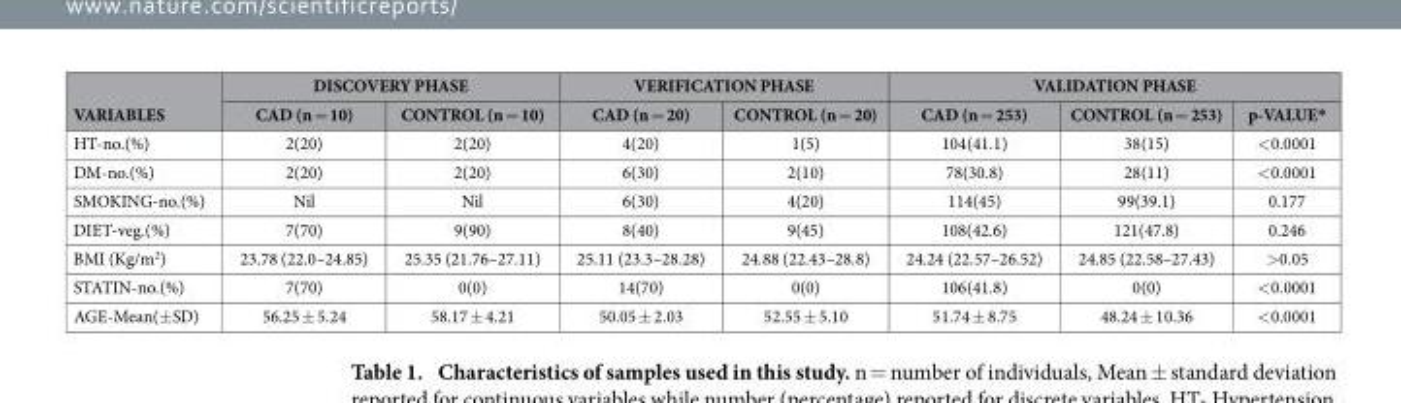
<table><thead><tr><td rowspan="2">VARIABLES</td><td colspan="2">DISCOVERY PHASE</td><td colspan="2">VERIFICATION PHASE</td><td colspan="3">VALIDATION PHASE</td></tr><tr><td>CAD (n = 10)</td><td>CONTROL (n = 10)</td><td>CAD (n = 20)</td><td>CONTROL (n = 20)</td><td>CAD (n = 253)</td><td>CONTROL (n = 253)</td><td>p-VALUE*</td></tr></thead><tbody><tr><td>HT-no.(%)</td><td>2(20)</td><td>2(20)</td><td>4(20)</td><td>1(5)</td><td>104(41.1)</td><td>38(15)</td><td>&lt; 0.0001</td></tr><tr><td>DM-no.(%)</td><td>2(20)</td><td>2(20)</td><td>6(30)</td><td>2(10)</td><td>78(30.8)</td><td>28(11)</td><td>&lt; 0.0001</td></tr><tr><td>SMOKING-no.(%)</td><td>Nil</td><td>Nil</td><td>6(30)</td><td>4(20)</td><td>114(45)</td><td>99(39.1)</td><td>0.177</td></tr><tr><td>DIET-veg.(%)</td><td>7(70)</td><td>9(90)</td><td>8(40)</td><td>9(45)</td><td>108(42.6)</td><td>121(47.8)</td><td>0.246</td></tr><tr><td>BMI (Kg/m<sup>2</sup>)</td><td>23.78 (22.0–24.85)</td><td>25.35 (21.76–27.11)</td><td>25.11 (23.3–28.28)</td><td>24.88 (22.43–28.8)</td><td>24.24 (22.57–26.52)</td><td>24.85 (22.58–27.43)</td><td>&gt; 0.05</td></tr><tr><td>STATIN-no.(%)</td><td>7(70)</td><td>0(0)</td><td>14(70)</td><td>0(0)</td><td>106(41.8)</td><td>0(0)</td><td>&lt; 0.0001</td></tr><tr><td>AGE-Mean(± SD)</td><td>56.25 ± 5.24</td><td>58.17 ± 4.21</td><td>50.05 ± 2.03</td><td>52.55 ± 5.10</td><td>51.74 ± 8.75</td><td>48.24 ± 10.36</td><td>&lt; 0.0001</td></tr></tbody></table>